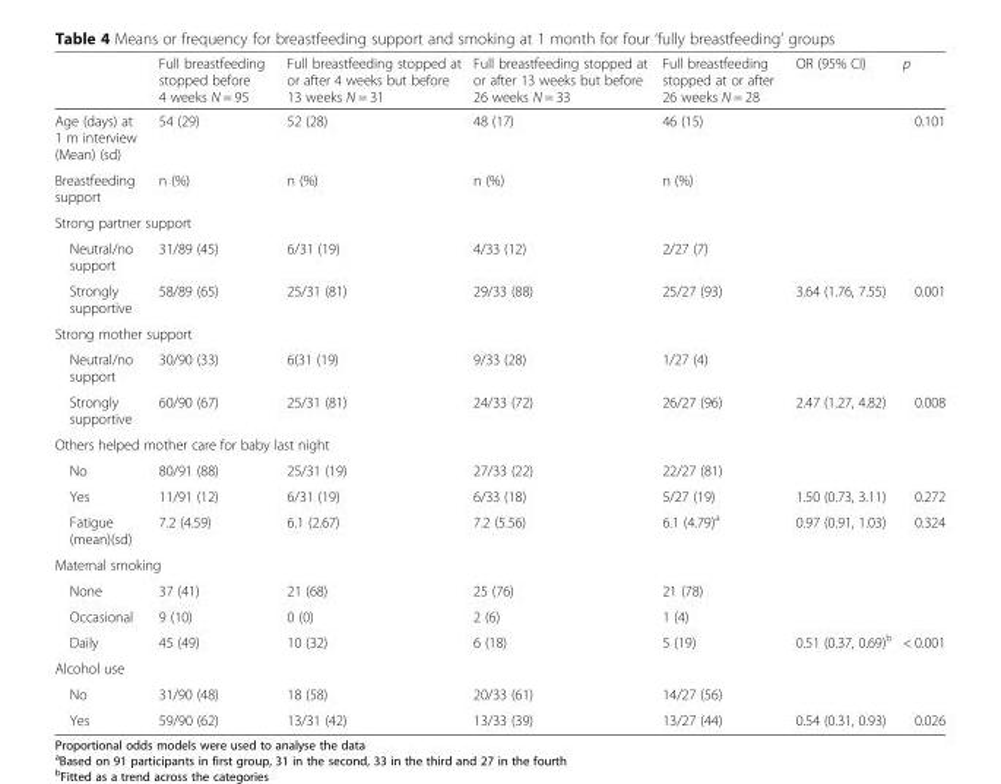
<table><thead><tr><td></td><td>Full breastfeeding stopped before 4 weeks N = 95</td><td>Full breastfeeding stopped at or after 4 weeks but before 13 weeks N = 31</td><td>Full breastfeeding stopped at or after 13 weeks but before 26 weeks N = 33</td><td>Full breastfeeding stopped at or after 26 weeks N = 28</td><td>OR (95% CI)</td><td>p</td></tr></thead><tbody><tr><td>Age (days) at 1 m interview (Mean) (sd)</td><td>54 (29)</td><td>52 (28)</td><td>48 (17)</td><td>46 (15)</td><td></td><td>0.101</td></tr><tr><td>Breastfeeding support</td><td>n (%)</td><td>n (%)</td><td>n (%)</td><td>n (%)</td><td></td><td></td></tr><tr><td colspan="7">Strong partner support</td></tr><tr><td>Neutral/no support</td><td>31/89 (45)</td><td>6/31 (19)</td><td>4/33 (12)</td><td>2/27 (7)</td><td></td><td></td></tr><tr><td>Strongly supportive</td><td>58/89 (65)</td><td>25/31 (81)</td><td>29/33 (88)</td><td>25/27 (93)</td><td>3.64 (1.76, 7.55)</td><td>0.001</td></tr><tr><td colspan="7">Strong mother support</td></tr><tr><td>Neutral/no support</td><td>30/90 (33)</td><td>6(31 (19)</td><td>9/33 (28)</td><td>1/27 (4)</td><td></td><td></td></tr><tr><td>Strongly supportive</td><td>60/90 (67)</td><td>25/31 (81)</td><td>24/33 (72)</td><td>26/27 (96)</td><td>2.47 (1.27, 4.82)</td><td>0.008</td></tr><tr><td colspan="7">Others helped mother care for baby last night</td></tr><tr><td>No</td><td>80/91 (88)</td><td>25/31 (19)</td><td>27/33 (22)</td><td>22/27 (81)</td><td></td><td></td></tr><tr><td>Yes</td><td>11/91 (12)</td><td>6/31 (19)</td><td>6/33 (18)</td><td>5/27 (19)</td><td>1.50 (0.73, 3.11)</td><td>0.272</td></tr><tr><td>Fatigue (mean)(sd)</td><td>7.2 (4.59)</td><td>6.1 (2.67)</td><td>7.2 (5.56)</td><td>6.1 (4.79)<sup>a</sup></td><td>0.97 (0.91, 1.03)</td><td>0.324</td></tr><tr><td colspan="7">Maternal smoking</td></tr><tr><td>None</td><td>37 (41)</td><td>21 (68)</td><td>25 (76)</td><td>21 (78)</td><td></td><td></td></tr><tr><td>Occasional</td><td>9 (10)</td><td>0 (0)</td><td>2 (6)</td><td>1 (4)</td><td></td><td></td></tr><tr><td>Daily</td><td>45 (49)</td><td>10 (32)</td><td>6 (18)</td><td>5 (19)</td><td>0.51 (0.37, 0.69)<sup>b</sup></td><td>&lt; 0.001</td></tr><tr><td colspan="7">Alcohol use</td></tr><tr><td>No</td><td>31/90 (48)</td><td>18 (58)</td><td>20/33 (61)</td><td>14/27 (56)</td><td></td><td></td></tr><tr><td>Yes</td><td>59/90 (62)</td><td>13/31 (42)</td><td>13/33 (39)</td><td>13/27 (44)</td><td>0.54 (0.31, 0.93)</td><td>0.026</td></tr></tbody></table>